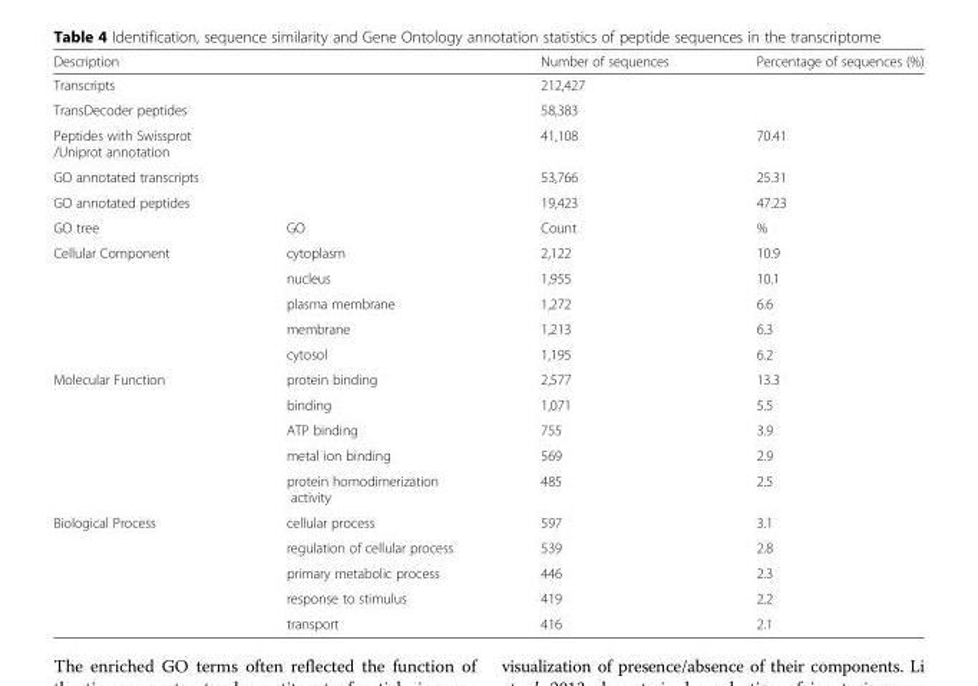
<table><thead><tr><td>Description</td><td></td><td>Number of sequences</td><td>Percentage of sequences (%)</td></tr></thead><tbody><tr><td>Transcripts</td><td></td><td>212,427</td><td></td></tr><tr><td>TransDecoder peptides</td><td></td><td>58,383</td><td></td></tr><tr><td>Peptides with Swissprot /Uniprot annotation</td><td></td><td>41,108</td><td>70.41</td></tr><tr><td>GO annotated transcripts</td><td></td><td>53,766</td><td>25.31</td></tr><tr><td>GO annotated peptides</td><td></td><td>19,423</td><td>47.23</td></tr><tr><td>GO tree</td><td>GO</td><td>Count</td><td>%</td></tr><tr><td rowspan="5">Cellular Component</td><td>cytoplasm</td><td>2,122</td><td>10.9</td></tr><tr><td>nucleus</td><td>1,955</td><td>10.1</td></tr><tr><td>plasma membrane</td><td>1,272</td><td>6.6</td></tr><tr><td>membrane</td><td>1,213</td><td>6.3</td></tr><tr><td>cytosol</td><td>1,195</td><td>6.2</td></tr><tr><td rowspan="5">Molecular Function</td><td>protein binding</td><td>2,577</td><td>13.3</td></tr><tr><td>binding</td><td>1,071</td><td>5.5</td></tr><tr><td>ATP binding</td><td>755</td><td>3.9</td></tr><tr><td>metal ion binding</td><td>569</td><td>2.9</td></tr><tr><td>protein homodimerization activity</td><td>485</td><td>2.5</td></tr><tr><td rowspan="5">Biological Process</td><td>cellular process</td><td>597</td><td>3.1</td></tr><tr><td>regulation of cellular process</td><td>539</td><td>2.8</td></tr><tr><td>primary metabolic process</td><td>446</td><td>2.3</td></tr><tr><td>response to stimulus</td><td>419</td><td>2.2</td></tr><tr><td>transport</td><td>416</td><td>2.1</td></tr></tbody></table>